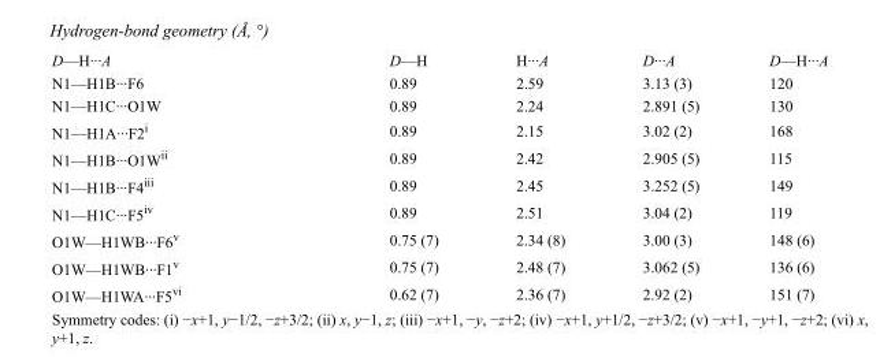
<table><tbody><tr><td>D—H···A</td><td>D—H</td><td>H···A</td><td>D···A</td><td>D—H···A</td></tr><tr><td>N1—H1B···F6</td><td>0.89</td><td>2.59</td><td>3.13 (3)</td><td>120</td></tr><tr><td>N1—H1C···O1W</td><td>0.89</td><td>2.24</td><td>2.891 (5)</td><td>130</td></tr><tr><td>N1—H1A···F2<sup>i</sup></td><td>0.89</td><td>2.15</td><td>3.02 (2)</td><td>168</td></tr><tr><td>N1—H1B···O1W<sup>ii</sup></td><td>0.89</td><td>2.42</td><td>2.905 (5)</td><td>115</td></tr><tr><td>N1—H1B···F4<sup>iii</sup></td><td>0.89</td><td>2.45</td><td>3.252 (5)</td><td>149</td></tr><tr><td>N1—H1C···F5<sup>iv</sup></td><td>0.89</td><td>2.51</td><td>3.04 (2)</td><td>119</td></tr><tr><td>O1W—H1WB···F6<sup>v</sup></td><td>0.75 (7)</td><td>2.34 (8)</td><td>3.00 (3)</td><td>148 (6)</td></tr><tr><td>O1W—H1WB···F1<sup>v</sup></td><td>0.75 (7)</td><td>2.48 (7)</td><td>3.062 (5)</td><td>136 (6)</td></tr><tr><td>O1W—H1WA···F5<sup>vi</sup></td><td>0.62 (7)</td><td>2.36 (7)</td><td>2.92 (2)</td><td>151 (7)</td></tr></tbody></table>